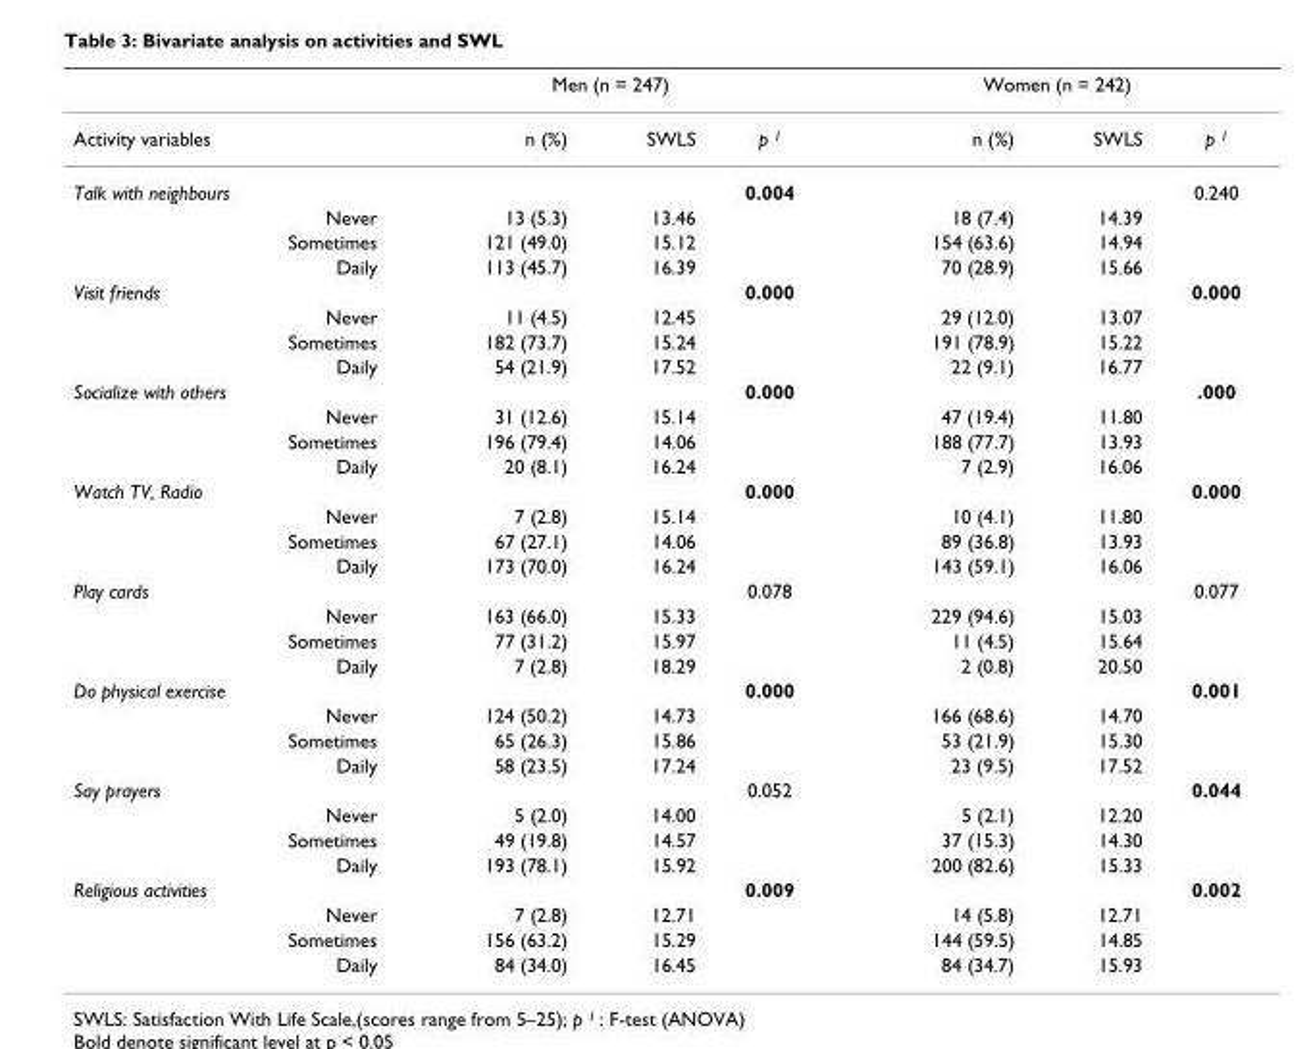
<table><thead><tr><td rowspan="2">Activity variables</td><td colspan="3">Men (n = 247)</td><td colspan="3">Women (n = 242)</td></tr><tr><td>n (%)</td><td>SWLS</td><td>p <sup>1</sup></td><td>n (%)</td><td>SWLS</td><td>p <sup>1</sup></td></tr></thead><tbody><tr><td>Talk with neighbours</td><td></td><td></td><td>0.004</td><td></td><td></td><td>0.240</td></tr><tr><td>Never</td><td>13 (5.3)</td><td>13.46</td><td></td><td>18 (7.4)</td><td>14.39</td><td></td></tr><tr><td>Sometimes</td><td>121 (49.0)</td><td>15.12</td><td></td><td>154 (63.6)</td><td>14.94</td><td></td></tr><tr><td>Daily</td><td>113 (45.7)</td><td>16.39</td><td></td><td>70 (28.9)</td><td>15.66</td><td></td></tr><tr><td>Visit friends</td><td></td><td></td><td>0.000</td><td></td><td></td><td>0.000</td></tr><tr><td>Never</td><td>11 (4.5)</td><td>12.45</td><td></td><td>29 (12.0)</td><td>13.07</td><td></td></tr><tr><td>Sometimes</td><td>182 (73.7)</td><td>15.24</td><td></td><td>191 (78.9)</td><td>15.22</td><td></td></tr><tr><td>Daily</td><td>54 (21.9)</td><td>17.52</td><td></td><td>22 (9.1)</td><td>16.77</td><td></td></tr><tr><td>Socialize with others</td><td></td><td></td><td>0.000</td><td></td><td></td><td>.000</td></tr><tr><td>Never</td><td>31 (12.6)</td><td>15.14</td><td></td><td>47 (19.4)</td><td>11.80</td><td></td></tr><tr><td>Sometimes</td><td>196 (79.4)</td><td>14.06</td><td></td><td>188 (77.7)</td><td>13.93</td><td></td></tr><tr><td>Daily</td><td>20 (8.1)</td><td>16.24</td><td></td><td>7 (2.9)</td><td>16.06</td><td></td></tr><tr><td>Watch TV, Radio</td><td></td><td></td><td>0.000</td><td></td><td></td><td>0.000</td></tr><tr><td>Never</td><td>7 (2.8)</td><td>15.14</td><td></td><td>10 (4.1)</td><td>11.80</td><td></td></tr><tr><td>Sometimes</td><td>67 (27.1)</td><td>14.06</td><td></td><td>89 (36.8)</td><td>13.93</td><td></td></tr><tr><td>Daily</td><td>173 (70.0)</td><td>16.24</td><td></td><td>143 (59.1)</td><td>16.06</td><td></td></tr><tr><td>Play cards</td><td></td><td></td><td>0.078</td><td></td><td></td><td>0.077</td></tr><tr><td>Never</td><td>163 (66.0)</td><td>15.33</td><td></td><td>229 (94.6)</td><td>15.03</td><td></td></tr><tr><td>Sometimes</td><td>77 (31.2)</td><td>15.97</td><td></td><td>11 (4.5)</td><td>15.64</td><td></td></tr><tr><td>Daily</td><td>7 (2.8)</td><td>18.29</td><td></td><td>2 (0.8)</td><td>20.50</td><td></td></tr><tr><td>Do physical exercise</td><td></td><td></td><td>0.000</td><td></td><td></td><td>0.001</td></tr><tr><td>Never</td><td>124 (50.2)</td><td>14.73</td><td></td><td>166 (68.6)</td><td>14.70</td><td></td></tr><tr><td>Sometimes</td><td>65 (26.3)</td><td>15.86</td><td></td><td>53 (21.9)</td><td>15.30</td><td></td></tr><tr><td>Daily</td><td>58 (23.5)</td><td>17.24</td><td></td><td>23 (9.5)</td><td>17.52</td><td></td></tr><tr><td>Say prayers</td><td></td><td></td><td>0.052</td><td></td><td></td><td>0.044</td></tr><tr><td>Never</td><td>5 (2.0)</td><td>14.00</td><td></td><td>5 (2.1)</td><td>12.20</td><td></td></tr><tr><td>Sometimes</td><td>49 (19.8)</td><td>14.57</td><td></td><td>37 (15.3)</td><td>14.30</td><td></td></tr><tr><td>Daily</td><td>193 (78.1)</td><td>15.92</td><td></td><td>200 (82.6)</td><td>15.33</td><td></td></tr><tr><td>Religious activities</td><td></td><td></td><td>0.009</td><td></td><td></td><td>0.002</td></tr><tr><td>Never</td><td>7 (2.8)</td><td>12.71</td><td></td><td>14 (5.8)</td><td>12.71</td><td></td></tr><tr><td>Sometimes</td><td>156 (63.2)</td><td>15.29</td><td></td><td>144 (59.5)</td><td>14.85</td><td></td></tr><tr><td>Daily</td><td>84 (34.0)</td><td>16.45</td><td></td><td>84 (34.7)</td><td>15.93</td><td></td></tr></tbody></table>